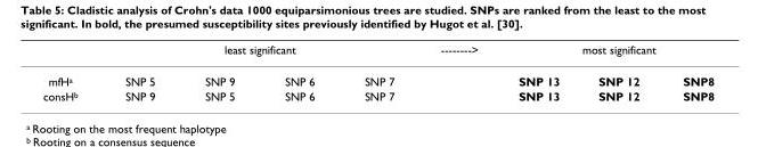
<table><thead><tr><td rowspan="2">mfH<sup>a</sup></td><td colspan="4">least significant</td><td rowspan="2">--------&gt;</td><td colspan="3">most significant</td></tr><tr><td>SNP 5</td><td>SNP 9</td><td>SNP 6</td><td>SNP 7</td><td>SNP 13</td><td>SNP 12</td><td>SNP8</td></tr></thead><tbody><tr><td>consH<sup>b</sup></td><td>SNP 9</td><td>SNP 5</td><td>SNP 6</td><td>SNP 7</td><td></td><td>SNP 13</td><td>SNP 12</td><td>SNP8</td></tr></tbody></table>